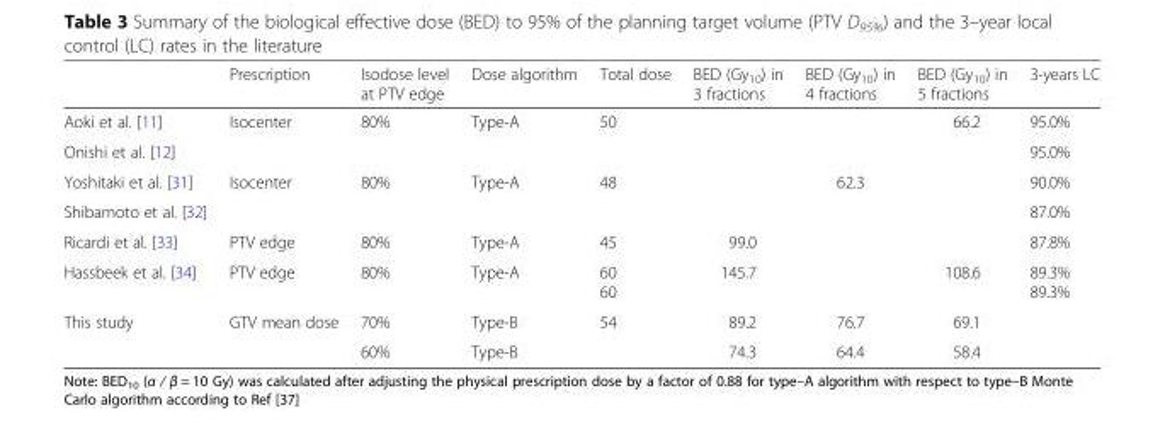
<table><thead><tr><td></td><td>Prescription</td><td>Isodose level at PTV edge</td><td>Dose algorithm</td><td>Total dose</td><td>BED (Gy<sub>10</sub>) in 3 fractions</td><td>BED (Gy<sub>10</sub>) in 4 fractions</td><td>BED (Gy<sub>10</sub>) in 5 fractions</td><td>3-years LC</td></tr></thead><tbody><tr><td>Aoki et al. [11]</td><td>Isocenter</td><td>80%</td><td>Type-A</td><td>50</td><td></td><td></td><td>66.2</td><td>95.0%</td></tr><tr><td>Onishi et al. [12]</td><td></td><td></td><td></td><td></td><td></td><td></td><td></td><td>95.0%</td></tr><tr><td>Yoshitaki et al. [31]</td><td>Isocenter</td><td>80%</td><td>Type-A</td><td>48</td><td></td><td>62.3</td><td></td><td>90.0%</td></tr><tr><td>Shibamoto et al. [32]</td><td></td><td></td><td></td><td></td><td></td><td></td><td></td><td>87.0%</td></tr><tr><td>Ricardi et al. [33]</td><td>PTV edge</td><td>80%</td><td>Type-A</td><td>45</td><td>99.0</td><td></td><td></td><td>87.8%</td></tr><tr><td>Hassbeek et al. [34]</td><td>PTV edge</td><td>80%</td><td>Type-A</td><td>60 60</td><td>145.7</td><td></td><td>108.6</td><td>89.3% 89.3%</td></tr><tr><td rowspan="2">This study</td><td rowspan="2">GTV mean dose</td><td>70%</td><td>Type-B</td><td>54</td><td>89.2</td><td>76.7</td><td>69.1</td><td></td></tr><tr><td>60%</td><td>Type-B</td><td></td><td>74.3</td><td>64.4</td><td>58.4</td><td></td></tr></tbody></table>